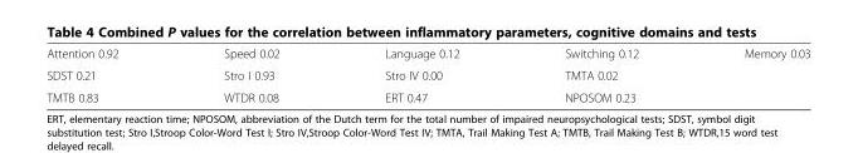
<table><tbody><tr><td>Attention 0.92</td><td>Speed 0.02</td><td>Language 0.12</td><td>Switching 0.12</td><td>Memory 0.03</td></tr><tr><td>SDST 0.21</td><td>Stro I 0.93</td><td>Stro IV 0.00</td><td>TMTA 0.02</td><td></td></tr><tr><td>TMTB 0.83</td><td>WTDR 0.08</td><td>ERT 0.47</td><td>NPOSOM 0.23</td><td></td></tr></tbody></table>